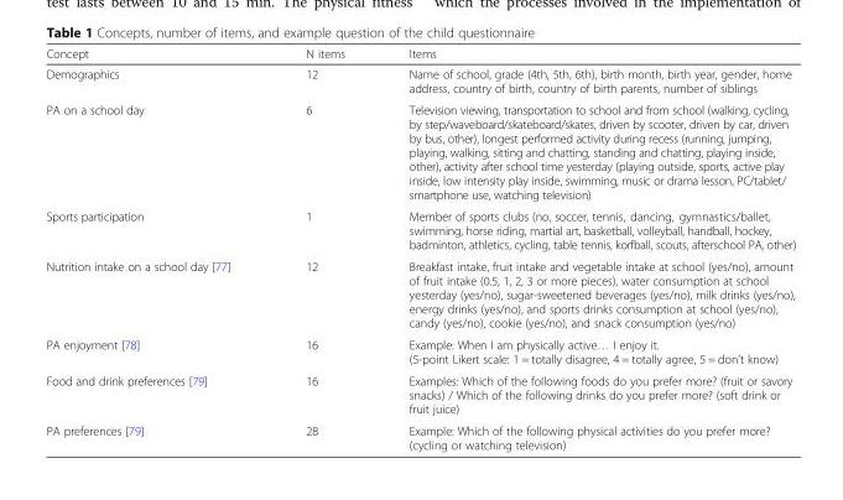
<table><thead><tr><td>Concept</td><td>N items</td><td>Items</td></tr></thead><tbody><tr><td>Demographics</td><td>12</td><td>Name of school, grade (4th, 5th, 6th), birth month, birth year, gender, home address, country of birth, country of birth parents, number of siblings</td></tr><tr><td>PA on a school day</td><td>6</td><td>Television viewing, transportation to school and from school (walking, cycling, by step/waveboard/skateboard/skates, driven by scooter, driven by car, driven by bus, other), longest performed activity during recess (running, jumping, playing, walking, sitting and chatting, standing and chatting, playing inside, other), activity after school time yesterday (playing outside, sports, active play inside, low intensity play inside, swimming, music or drama lesson, PC/tablet/ smartphone use, watching television)</td></tr><tr><td>Sports participation</td><td>1</td><td>Member of sports clubs (no, soccer, tennis, dancing, gymnastics/ballet, swimming, horse riding, martial art, basketball, volleyball, handball, hockey, badminton, athletics, cycling, table tennis, korfball, scouts, afterschool PA, other)</td></tr><tr><td>Nutrition intake on a school day [77]</td><td>12</td><td>Breakfast intake, fruit intake and vegetable intake at school (yes/no), amount of fruit intake (0.5, 1, 2, 3 or more pieces), water consumption at school yesterday (yes/no), sugar-sweetened beverages (yes/no), milk drinks (yes/no), energy drinks (yes/no), and sports drinks consumption at school (yes/no), candy (yes/no), cookie (yes/no), and snack consumption (yes/no)</td></tr><tr><td>PA enjoyment [78]</td><td>16</td><td>Example: When I am physically active… I enjoy it. (5-point Likert scale: 1 = totally disagree, 4 = totally agree, 5 = don’t know)</td></tr><tr><td>Food and drink preferences [79]</td><td>16</td><td>Examples: Which of the following foods do you prefer more? (fruit or savory snacks) / Which of the following drinks do you prefer more? (soft drink or fruit juice)</td></tr><tr><td>PA preferences [79]</td><td>28</td><td>Example: Which of the following physical activities do you prefer more? (cycling or watching television)</td></tr></tbody></table>